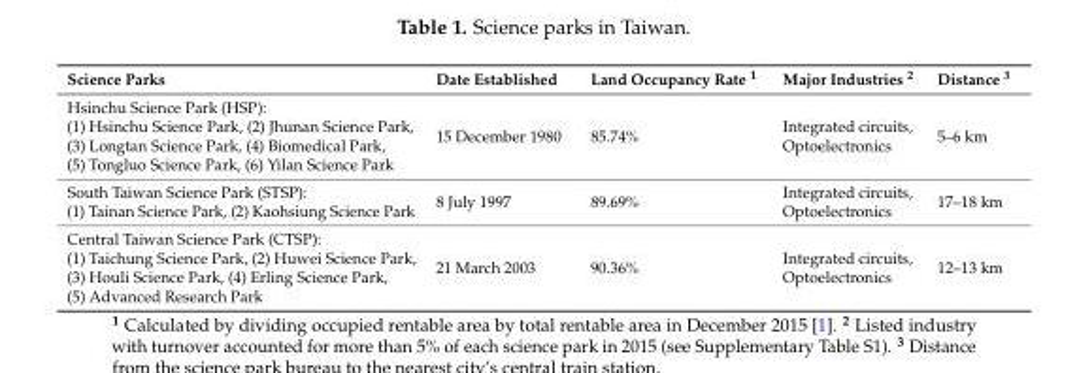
<table><thead><tr><td>Science Parks</td><td>Date Established</td><td>Land Occupancy Rate <sup>1</sup></td><td>Major Industries <sup>2</sup></td><td>Distance <sup>3</sup></td></tr></thead><tbody><tr><td>Hsinchu Science Park (HSP): (1) Hsinchu Science Park, (2) Jhunan Science Park, (3) Longtan Science Park, (4) Biomedical Park, (5) Tongluo Science Park, (6) Yilan Science Park</td><td>15 December 1980</td><td>85.74%</td><td>Integrated circuits, Optoelectronics</td><td>5–6 km</td></tr><tr><td>South Taiwan Science Park (STSP): (1) Tainan Science Park, (2) Kaohsiung Science Park</td><td>8 July 1997</td><td>89.69%</td><td>Integrated circuits, Optoelectronics</td><td>17–18 km</td></tr><tr><td>Central Taiwan Science Park (CTSP): (1) Taichung Science Park, (2) Huwei Science Park, (3) Houli Science Park, (4) Erling Science Park, (5) Advanced Research Park</td><td>21 March 2003</td><td>90.36%</td><td>Integrated circuits, Optoelectronics</td><td>12–13 km</td></tr></tbody></table>